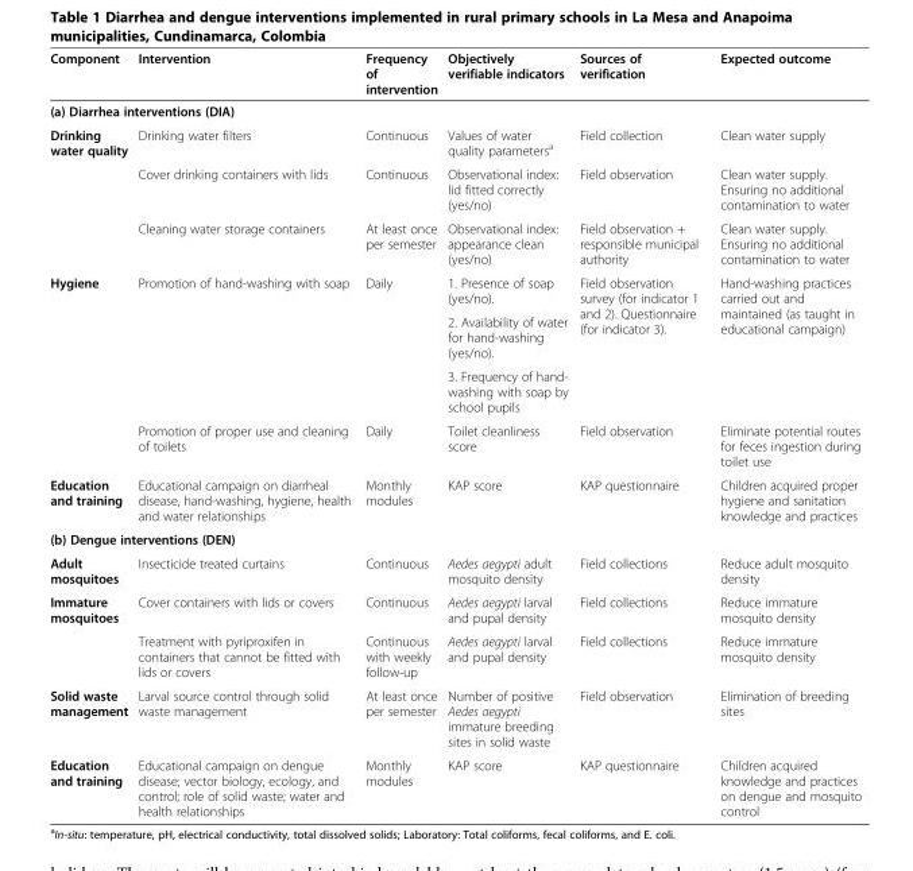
<table><thead><tr><td>Component</td><td>Intervention</td><td>Frequency of intervention</td><td>Objectively verifiable indicators</td><td>Sources of verification</td><td>Expected outcome</td></tr></thead><tbody><tr><td colspan="6">(a) Diarrhea interventions (DIA)</td></tr><tr><td rowspan="3">Drinking water quality</td><td>Drinking water filters</td><td>Continuous</td><td>Values of water quality parameters<sup>a</sup></td><td>Field collection</td><td>Clean water supply</td></tr><tr><td>Cover drinking containers with lids</td><td>Continuous</td><td>Observational index: lid fitted correctly (yes/no)</td><td>Field observation</td><td>Clean water supply. Ensuring no additional contamination to water</td></tr><tr><td>Cleaning water storage containers</td><td>At least once per semester</td><td>Observational index: appearance clean (yes/no)</td><td>Field observation + responsible municipal authority</td><td>Clean water supply. Ensuring no additional contamination to water</td></tr><tr><td rowspan="4">Hygiene</td><td rowspan="3">Promotion of hand-washing with soap</td><td rowspan="3">Daily</td><td>1. Presence of soap (yes/no).</td><td rowspan="3">Field observation survey (for indicator 1 and 2). Questionnaire (for indicator 3).</td><td rowspan="3">Hand-washing practices carried out and maintained (as taught in educational campaign)</td></tr><tr><td>2. Availability of water for hand-washing (yes/no).</td></tr><tr><td>3. Frequency of hand- washing with soap by school pupils</td></tr><tr><td>Promotion of proper use and cleaning of toilets</td><td>Daily</td><td>Toilet cleanliness score</td><td>Field observation</td><td>Eliminate potential routes for feces ingestion during toilet use</td></tr><tr><td>Education and training</td><td>Educational campaign on diarrheal disease, hand-washing, hygiene, health and water relationships</td><td>Monthly modules</td><td>KAP score</td><td>KAP questionnaire</td><td>Children acquired proper hygiene and sanitation knowledge and practices</td></tr><tr><td colspan="6">(b) Dengue interventions (DEN)</td></tr><tr><td>Adult mosquitoes</td><td>Insecticide treated curtains</td><td>Continuous</td><td>Aedes aegypti adult mosquito density</td><td>Field collections</td><td>Reduce adult mosquito density</td></tr><tr><td rowspan="2">Immature mosquitoes</td><td>Cover containers with lids or covers</td><td>Continuous</td><td>Aedes aegypti larval and pupal density</td><td>Field collections</td><td>Reduce immature mosquito density</td></tr><tr><td>Treatment with pyriproxifen in containers that cannot be fitted with lids or covers</td><td>Continuous with weekly follow-up</td><td>Aedes aegypti larval and pupal density</td><td>Field collections</td><td>Reduce immature mosquito density</td></tr><tr><td>Solid waste management</td><td>Larval source control through solid waste management</td><td>At least once per semester</td><td>Number of positive Aedes aegypti immature breeding sites in solid waste</td><td>Field observation</td><td>Elimination of breeding sites</td></tr><tr><td>Education and training</td><td>Educational campaign on dengue disease; vector biology, ecology, and control; role of solid waste; water and health relationships</td><td>Monthly modules</td><td>KAP score</td><td>KAP questionnaire</td><td>Children acquired knowledge and practices on dengue and mosquito control</td></tr></tbody></table>